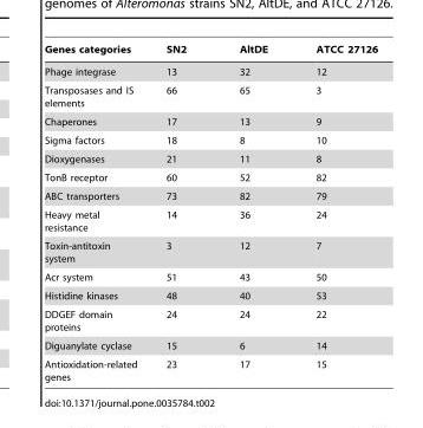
<table><thead><tr><td>Genes categories</td><td>SN2</td><td>AltDE</td><td>ATCC 27126</td></tr></thead><tbody><tr><td>Phage integrase</td><td>13</td><td>32</td><td>12</td></tr><tr><td>Transposases and IS elements</td><td>66</td><td>65</td><td>3</td></tr><tr><td>Chaperones</td><td>17</td><td>13</td><td>9</td></tr><tr><td>Sigma factors</td><td>18</td><td>8</td><td>10</td></tr><tr><td>Dioxygenases</td><td>21</td><td>11</td><td>8</td></tr><tr><td>TonB receptor</td><td>60</td><td>52</td><td>82</td></tr><tr><td>ABC transporters</td><td>73</td><td>82</td><td>79</td></tr><tr><td>Heavy metal resistance</td><td>14</td><td>36</td><td>24</td></tr><tr><td>Toxin-antitoxin system</td><td>3</td><td>12</td><td>7</td></tr><tr><td>Acr system</td><td>51</td><td>43</td><td>50</td></tr><tr><td>Histidine kinases</td><td>48</td><td>40</td><td>53</td></tr><tr><td>DDGEF domain proteins</td><td>24</td><td>24</td><td>22</td></tr><tr><td>Diguanylate cyclase</td><td>15</td><td>6</td><td>14</td></tr><tr><td>Antioxidation-related genes</td><td>23</td><td>17</td><td>15</td></tr></tbody></table>